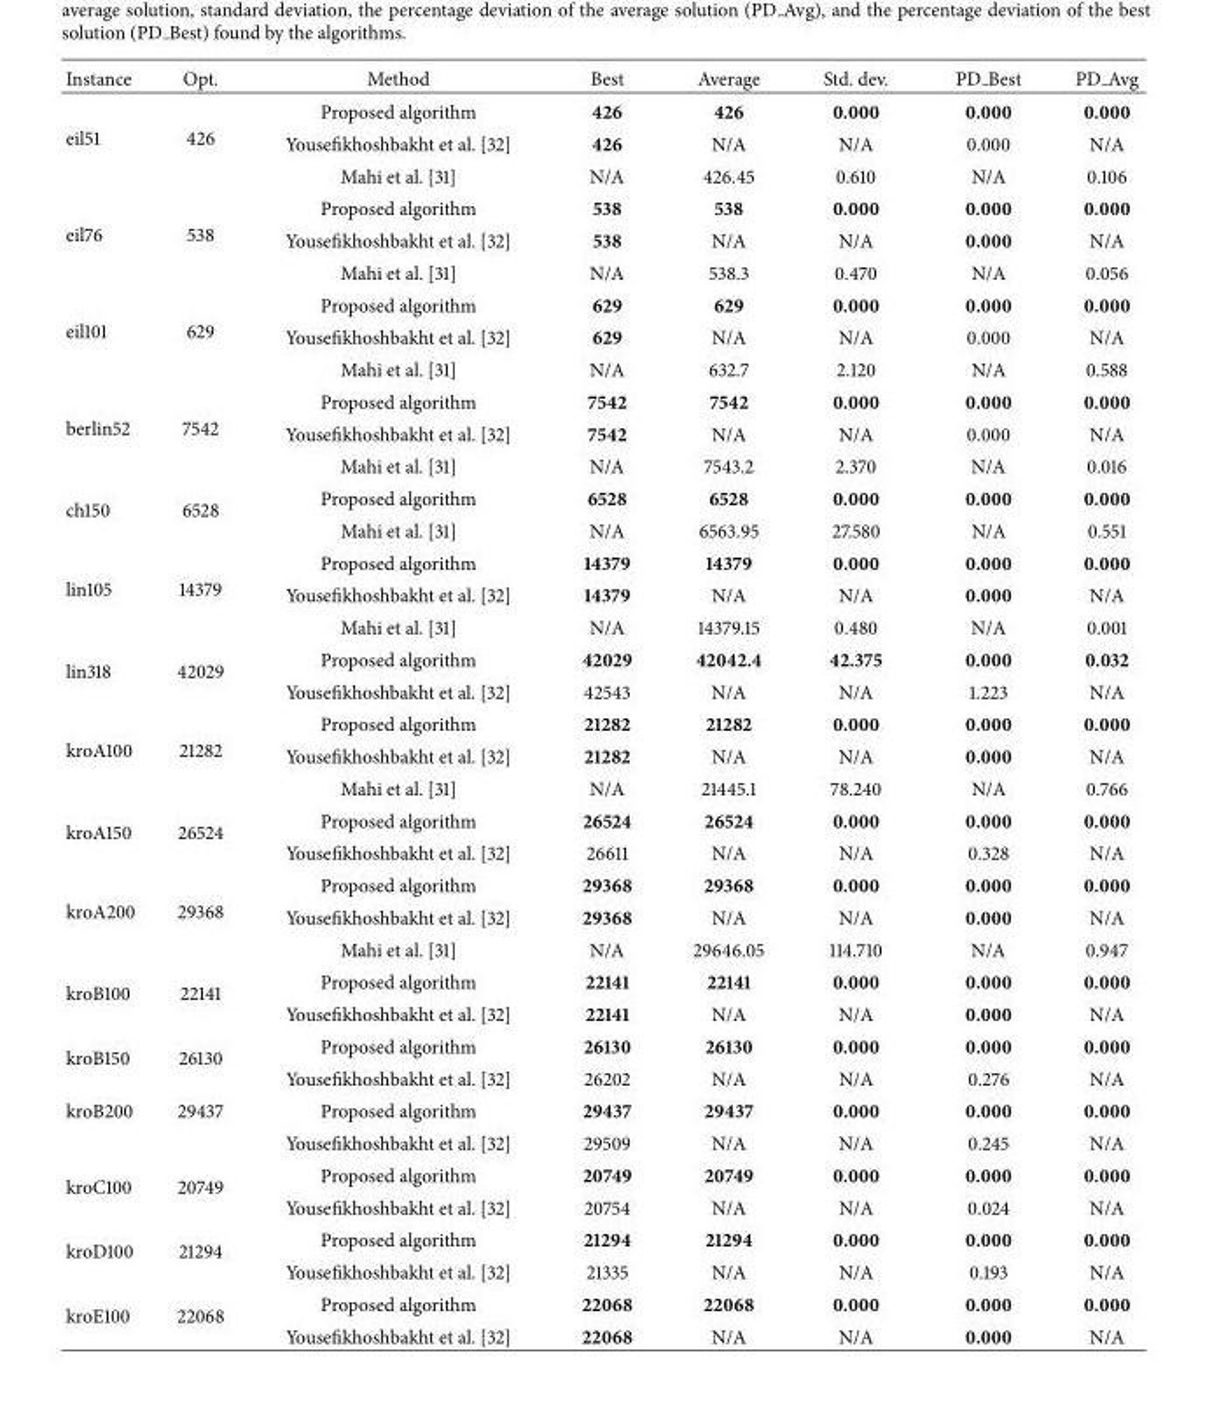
<table><thead><tr><td>Instance</td><td>Opt.</td><td>Method</td><td>Best</td><td>Average</td><td>Std. dev.</td><td>PD Best</td><td>PD Avg</td></tr></thead><tbody><tr><td rowspan="3">eil51</td><td rowspan="3">426</td><td>Proposed algorithm</td><td>426</td><td>426</td><td>0.000</td><td>0.000</td><td>0.000</td></tr><tr><td>Yousefikhoshbakht et al. [32]</td><td>426</td><td>N/A</td><td>N/A</td><td>0.000</td><td>N/A</td></tr><tr><td>Mahi et al. [31]</td><td>N/A</td><td>426.45</td><td>0.610</td><td>N/A</td><td>0.106</td></tr><tr><td rowspan="3">eil76</td><td rowspan="3">538</td><td>Proposed algorithm</td><td>538</td><td>538</td><td>0.000</td><td>0.000</td><td>0.000</td></tr><tr><td>Yousefikhoshbakht et al. [32]</td><td>538</td><td>N/A</td><td>N/A</td><td>0.000</td><td>N/A</td></tr><tr><td>Mahi et al. [31]</td><td>N/A</td><td>538.3</td><td>0.470</td><td>N/A</td><td>0.056</td></tr><tr><td rowspan="3">eil101</td><td rowspan="3">629</td><td>Proposed algorithm</td><td>629</td><td>629</td><td>0.000</td><td>0.000</td><td>0.000</td></tr><tr><td>Yousefikhoshbakht et al. [32]</td><td>629</td><td>N/A</td><td>N/A</td><td>0.000</td><td>N/A</td></tr><tr><td>Mahi et al. [31]</td><td>N/A</td><td>632.7</td><td>2.120</td><td>N/A</td><td>0.588</td></tr><tr><td rowspan="3">berlin52</td><td rowspan="3">7542</td><td>Proposed algorithm</td><td>7542</td><td>7542</td><td>0.000</td><td>0.000</td><td>0.000</td></tr><tr><td>Yousefikhoshbakht et al. [32]</td><td>7542</td><td>N/A</td><td>N/A</td><td>0.000</td><td>N/A</td></tr><tr><td>Mahi et al. [31]</td><td>N/A</td><td>7543.2</td><td>2.370</td><td>N/A</td><td>0.016</td></tr><tr><td rowspan="2">ch150</td><td rowspan="2">6528</td><td>Proposed algorithm</td><td>6528</td><td>6528</td><td>0.000</td><td>0.000</td><td>0.000</td></tr><tr><td>Mahi et al. [31]</td><td>N/A</td><td>6563.95</td><td>27.580</td><td>N/A</td><td>0.551</td></tr><tr><td rowspan="3">lin105</td><td rowspan="3">14379</td><td>Proposed algorithm</td><td>14379</td><td>14379</td><td>0.000</td><td>0.000</td><td>0.000</td></tr><tr><td>Yousefikhoshbakht et al. [32]</td><td>14379</td><td>N/A</td><td>N/A</td><td>0.000</td><td>N/A</td></tr><tr><td>Mahi et al. [31]</td><td>N/A</td><td>14379.15</td><td>0.480</td><td>N/A</td><td>0.001</td></tr><tr><td rowspan="2">lin318</td><td rowspan="2">42029</td><td>Proposed algorithm</td><td>42029</td><td>42042.4</td><td>42.375</td><td>0.000</td><td>0.032</td></tr><tr><td>Yousefikhoshbakht et al. [32]</td><td>42543</td><td>N/A</td><td>N/A</td><td>1.223</td><td>N/A</td></tr><tr><td rowspan="3">kroA100</td><td rowspan="3">21282</td><td>Proposed algorithm</td><td>21282</td><td>21282</td><td>0.000</td><td>0.000</td><td>0.000</td></tr><tr><td>Yousefikhoshbakht et al. [32]</td><td>21282</td><td>N/A</td><td>N/A</td><td>0.000</td><td>N/A</td></tr><tr><td>Mahi et al. [31]</td><td>N/A</td><td>21445.1</td><td>78.240</td><td>N/A</td><td>0.766</td></tr><tr><td rowspan="2">kroA150</td><td rowspan="2">26524</td><td>Proposed algorithm</td><td>26524</td><td>26524</td><td>0.000</td><td>0.000</td><td>0.000</td></tr><tr><td>Yousefikhoshbakht et al. [32]</td><td>26611</td><td>N/A</td><td>N/A</td><td>0.328</td><td>N/A</td></tr><tr><td rowspan="3">kroA200</td><td rowspan="3">29368</td><td>Proposed algorithm</td><td>29368</td><td>29368</td><td>0.000</td><td>0.000</td><td>0.000</td></tr><tr><td>Yousefikhoshbakht et al. [32]</td><td>29368</td><td>N/A</td><td>N/A</td><td>0.000</td><td>N/A</td></tr><tr><td>Mahi et al. [31]</td><td>N/A</td><td>29646.05</td><td>114.710</td><td>N/A</td><td>0.947</td></tr><tr><td rowspan="2">kroB100</td><td rowspan="2">22141</td><td>Proposed algorithm</td><td>22141</td><td>22141</td><td>0.000</td><td>0.000</td><td>0.000</td></tr><tr><td>Yousefikhoshbakht et al. [32]</td><td>22141</td><td>N/A</td><td>N/A</td><td>0.000</td><td>N/A</td></tr><tr><td rowspan="2">kroB150</td><td rowspan="2">26130</td><td>Proposed algorithm</td><td>26130</td><td>26130</td><td>0.000</td><td>0.000</td><td>0.000</td></tr><tr><td>Yousefikhoshbakht et al. [32]</td><td>26202</td><td>N/A</td><td>N/A</td><td>0.276</td><td>N/A</td></tr><tr><td rowspan="2">kroB200</td><td>29437</td><td>Proposed algorithm</td><td>29437</td><td>29437</td><td>0.000</td><td>0.000</td><td>0.000</td></tr><tr><td></td><td>Yousefikhoshbakht et al. [32]</td><td>29509</td><td>N/A</td><td>N/A</td><td>0.245</td><td>N/A</td></tr><tr><td rowspan="2">kroC100</td><td rowspan="2">20749</td><td>Proposed algorithm</td><td>20749</td><td>20749</td><td>0.000</td><td>0.000</td><td>0.000</td></tr><tr><td>Yousefikhoshbakht et al. [32]</td><td>20754</td><td>N/A</td><td>N/A</td><td>0.024</td><td>N/A</td></tr><tr><td rowspan="2">kroD100</td><td rowspan="2">21294</td><td>Proposed algorithm</td><td>21294</td><td>21294</td><td>0.000</td><td>0.000</td><td>0.000</td></tr><tr><td>Yousefikhoshbakht et al. [32]</td><td>21335</td><td>N/A</td><td>N/A</td><td>0.193</td><td>N/A</td></tr><tr><td rowspan="2">kroE100</td><td rowspan="2">22068</td><td>Proposed algorithm</td><td>22068</td><td>22068</td><td>0.000</td><td>0.000</td><td>0.000</td></tr><tr><td>Yousefikhoshbakht et al. [32]</td><td>22068</td><td>N/A</td><td>N/A</td><td>0.000</td><td>N/A</td></tr></tbody></table>